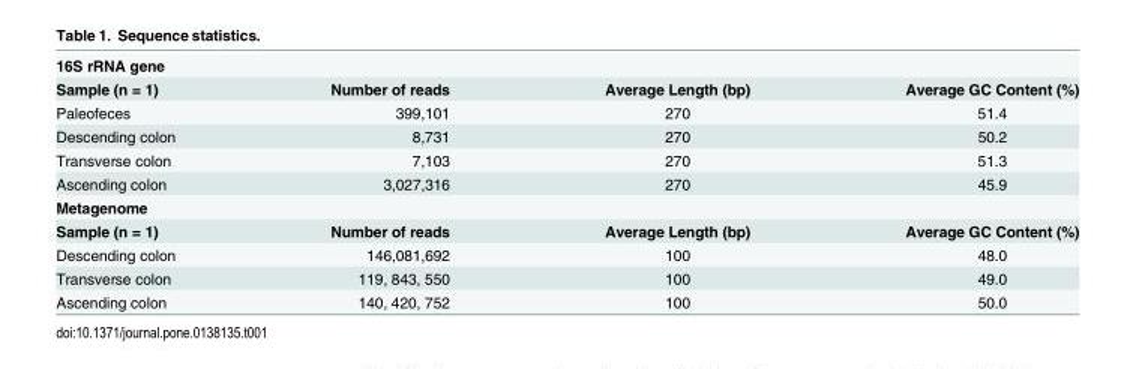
<table><tbody><tr><td colspan="4">16S rRNA gene</td></tr><tr><td>Sample (n = 1)</td><td>Number of reads</td><td>Average Length (bp)</td><td>Average GC Content (%)</td></tr><tr><td>Paleofeces</td><td>399,101</td><td>270</td><td>51.4</td></tr><tr><td>Descending colon</td><td>8,731</td><td>270</td><td>50.2</td></tr><tr><td>Transverse colon</td><td>7,103</td><td>270</td><td>51.3</td></tr><tr><td>Ascending colon</td><td>3,027,316</td><td>270</td><td>45.9</td></tr><tr><td colspan="4">Metagenome</td></tr><tr><td>Sample (n = 1)</td><td>Number of reads</td><td>Average Length (bp)</td><td>Average GC Content (%)</td></tr><tr><td>Descending colon</td><td>146,081,692</td><td>100</td><td>48.0</td></tr><tr><td>Transverse colon</td><td>119, 843, 550</td><td>100</td><td>49.0</td></tr><tr><td>Ascending colon</td><td>140, 420, 752</td><td>100</td><td>50.0</td></tr></tbody></table>